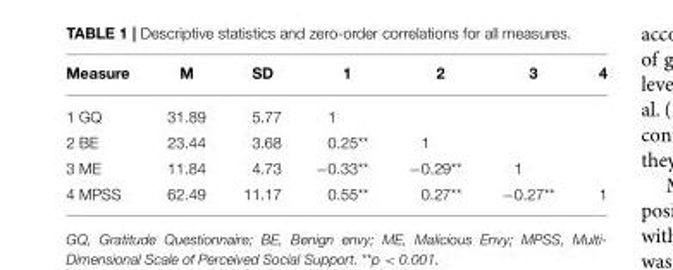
<table><thead><tr><td>Measure</td><td>M</td><td>SD</td><td>1</td><td>2</td><td>3</td><td>4</td></tr></thead><tbody><tr><td>1 GQ</td><td>31.89</td><td>5.77</td><td>1</td><td></td><td></td><td></td></tr><tr><td>2 BE</td><td>23.44</td><td>3.68</td><td>0.25**</td><td>1</td><td></td><td></td></tr><tr><td>3 ME</td><td>11.84</td><td>4.73</td><td>−0.33**</td><td>−0.29**</td><td>1</td><td></td></tr><tr><td>4 MPSS</td><td>62.49</td><td>11.17</td><td>0.55**</td><td>0.27**</td><td>−0.27**</td><td>1</td></tr></tbody></table>